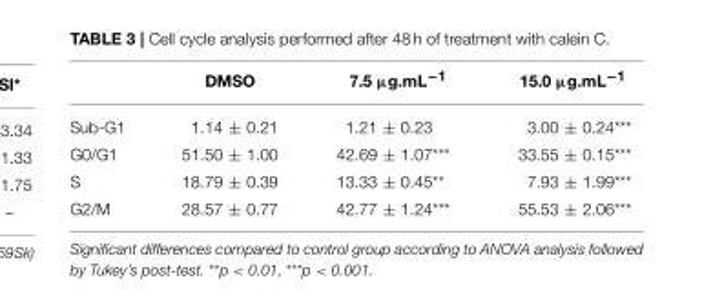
<table><thead><tr><td></td><td>DMSO</td><td>7.5 µg.mL<sup>−1</sup></td><td>15.0 µg.mL<sup>−1</sup></td></tr></thead><tbody><tr><td>Sub-G1</td><td>1.14 ± 0.21</td><td>1.21 ± 0.23</td><td>3.00 ± 0.24***</td></tr><tr><td>G0/G1</td><td>51.50 ± 1.00</td><td>42.69 ± 1.07***</td><td>33.55 ± 0.15***</td></tr><tr><td>S</td><td>18.79 ± 0.39</td><td>13.33 ± 0.45**</td><td>7.93 ± 1.99***</td></tr><tr><td>G2/M</td><td>28.57 ± 0.77</td><td>42.77 ± 1.24***</td><td>55.53 ± 2.06***</td></tr></tbody></table>